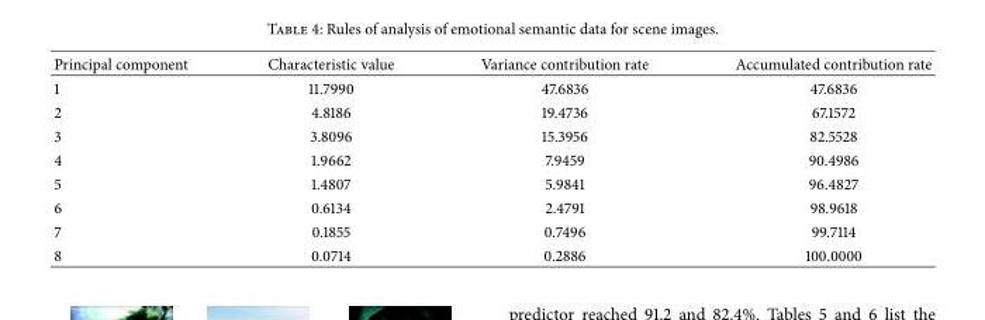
<table><thead><tr><td>Principal component</td><td>Characteristic value</td><td>Variance contribution rate</td><td>Accumulated contribution rate</td></tr></thead><tbody><tr><td>1</td><td>11.7990</td><td>47.6836</td><td>47.6836</td></tr><tr><td>2</td><td>4.8186</td><td>19.4736</td><td>67.1572</td></tr><tr><td>3</td><td>3.8096</td><td>15.3956</td><td>82.5528</td></tr><tr><td>4</td><td>1.9662</td><td>7.9459</td><td>90.4986</td></tr><tr><td>5</td><td>1.4807</td><td>5.9841</td><td>96.4827</td></tr><tr><td>6</td><td>0.6134</td><td>2.4791</td><td>98.9618</td></tr><tr><td>7</td><td>0.1855</td><td>0.7496</td><td>99.7114</td></tr><tr><td>8</td><td>0.0714</td><td>0.2886</td><td>100.0000</td></tr></tbody></table>